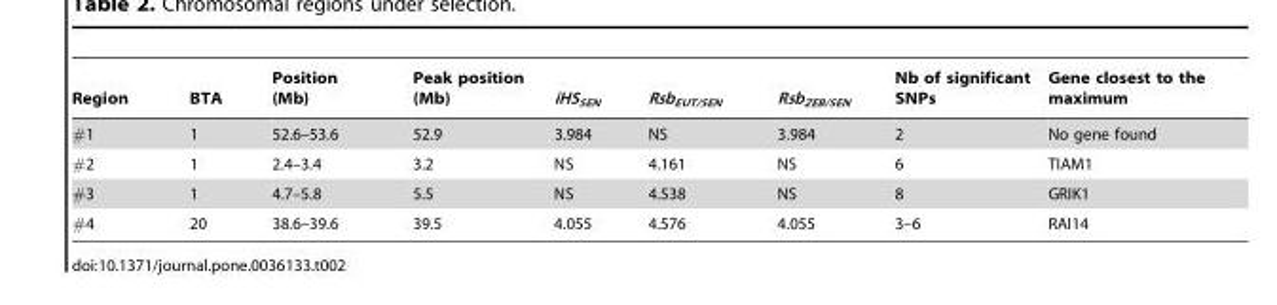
<table><thead><tr><td>Region</td><td>BTA</td><td>Position (Mb)</td><td>Peak position (Mb)</td><td>iHS<sub>SEN</sub></td><td>Rsb<sub>EUT/SEN</sub></td><td>Rsb<sub>ZEB/SEN</sub></td><td>Nb of significant SNPs</td><td>Gene closest to the maximum</td></tr></thead><tbody><tr><td>#1</td><td>1</td><td>52.6–53.6</td><td>52.9</td><td>3.984</td><td>NS</td><td>3.984</td><td>2</td><td>No gene found</td></tr><tr><td>#2</td><td>1</td><td>2.4–3.4</td><td>3.2</td><td>NS</td><td>4.161</td><td>NS</td><td>6</td><td>TIAM1</td></tr><tr><td>#3</td><td>1</td><td>4.7–5.8</td><td>5.5</td><td>NS</td><td>4.538</td><td>NS</td><td>8</td><td>GRIK1</td></tr><tr><td>#4</td><td>20</td><td>38.6–39.6</td><td>39.5</td><td>4.055</td><td>4.576</td><td>4.055</td><td>3–6</td><td>RAI14</td></tr></tbody></table>